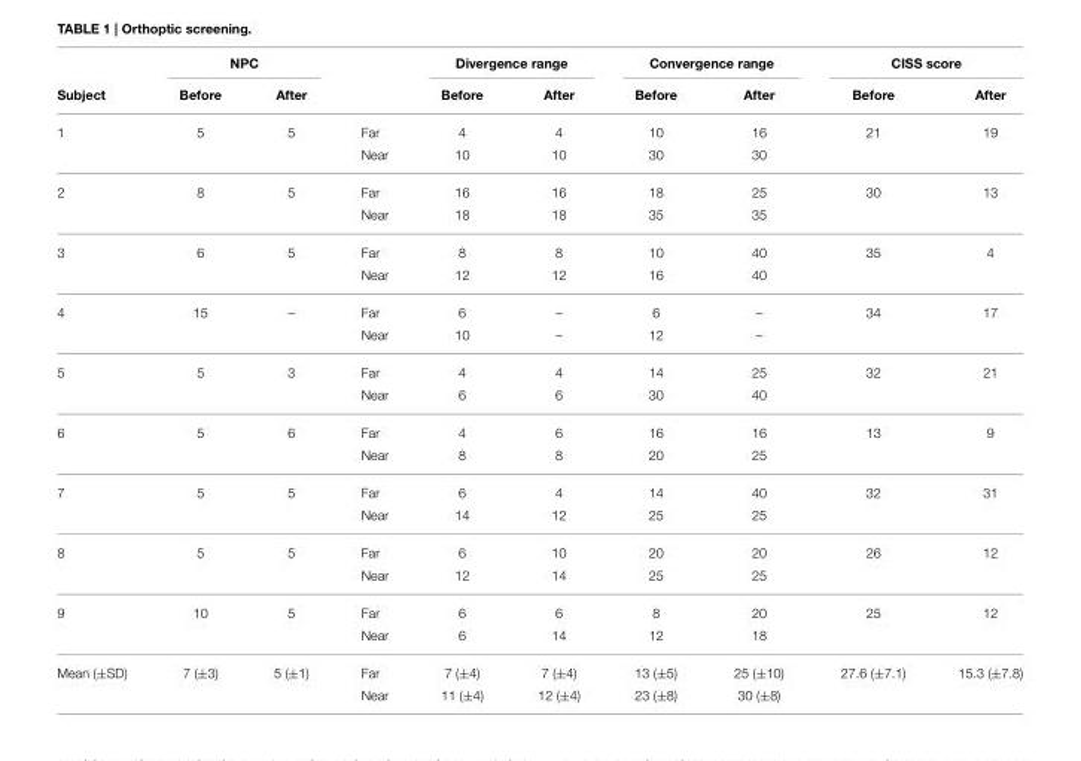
<table><thead><tr><td rowspan="2">Subject</td><td colspan="2">NPC</td><td rowspan="2"></td><td colspan="2">Divergence range</td><td colspan="2">Convergence range</td><td colspan="2">CISS score</td></tr><tr><td>Before</td><td>After</td><td>Before</td><td>After</td><td>Before</td><td>After</td><td>Before</td><td>After</td></tr></thead><tbody><tr><td rowspan="2">1</td><td>5</td><td>5</td><td>Far</td><td>4</td><td>4</td><td>10</td><td>16</td><td>21</td><td>19</td></tr><tr><td></td><td></td><td>Near</td><td>10</td><td>10</td><td>30</td><td>30</td><td></td><td></td></tr><tr><td rowspan="2">2</td><td>8</td><td>5</td><td>Far</td><td>16</td><td>16</td><td>18</td><td>25</td><td>30</td><td>13</td></tr><tr><td></td><td></td><td>Near</td><td>18</td><td>18</td><td>35</td><td>35</td><td></td><td></td></tr><tr><td rowspan="2">3</td><td>6</td><td>5</td><td>Far</td><td>8</td><td>8</td><td>10</td><td>40</td><td>35</td><td>4</td></tr><tr><td></td><td></td><td>Near</td><td>12</td><td>12</td><td>16</td><td>40</td><td></td><td></td></tr><tr><td rowspan="2">4</td><td>15</td><td>–</td><td>Far</td><td>6</td><td>–</td><td>6</td><td>–</td><td>34</td><td>17</td></tr><tr><td></td><td></td><td>Near</td><td>10</td><td>–</td><td>12</td><td>–</td><td></td><td></td></tr><tr><td rowspan="2">5</td><td>5</td><td>3</td><td>Far</td><td>4</td><td>4</td><td>14</td><td>25</td><td>32</td><td>21</td></tr><tr><td></td><td></td><td>Near</td><td>6</td><td>6</td><td>30</td><td>40</td><td></td><td></td></tr><tr><td rowspan="2">6</td><td>5</td><td>6</td><td>Far</td><td>4</td><td>6</td><td>16</td><td>16</td><td>13</td><td>9</td></tr><tr><td></td><td></td><td>Near</td><td>8</td><td>8</td><td>20</td><td>25</td><td></td><td></td></tr><tr><td rowspan="2">7</td><td>5</td><td>5</td><td>Far</td><td>6</td><td>4</td><td>14</td><td>40</td><td>32</td><td>31</td></tr><tr><td></td><td></td><td>Near</td><td>14</td><td>12</td><td>25</td><td>25</td><td></td><td></td></tr><tr><td rowspan="2">8</td><td>5</td><td>5</td><td>Far</td><td>6</td><td>10</td><td>20</td><td>20</td><td>26</td><td>12</td></tr><tr><td></td><td></td><td>Near</td><td>12</td><td>14</td><td>25</td><td>25</td><td></td><td></td></tr><tr><td rowspan="2">9</td><td>10</td><td>5</td><td>Far</td><td>6</td><td>6</td><td>8</td><td>20</td><td>25</td><td>12</td></tr><tr><td></td><td></td><td>Near</td><td>6</td><td>14</td><td>12</td><td>18</td><td></td><td></td></tr><tr><td rowspan="2">Mean (±SD)</td><td>7 (±3)</td><td>5 (±1)</td><td>Far</td><td>7 (±4)</td><td>7 (±4)</td><td>13 (±5)</td><td>25 (±10)</td><td>27.6 (±7.1)</td><td>15.3 (±7.8)</td></tr><tr><td></td><td></td><td>Near</td><td>11 (±4)</td><td>12 (±4)</td><td>23 (±8)</td><td>30 (±8)</td><td></td><td></td></tr></tbody></table>